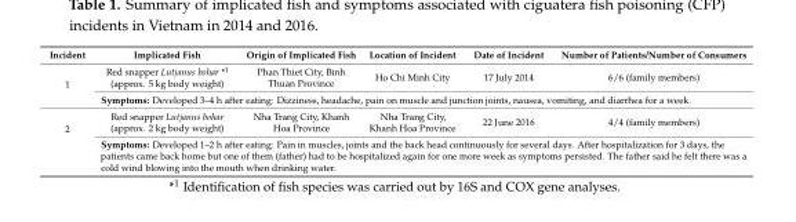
<table><thead><tr><td>Incident</td><td>Implicated Fish</td><td>Origin of Implicated Fish</td><td>Location of Incident</td><td>Date of Incident</td><td>Number of Patients/Number of Consumers</td></tr></thead><tbody><tr><td rowspan="2">1</td><td>Red snapper Lutjanus bohar *<sup>1</sup> (approx. 5 kg body weight)</td><td>Phan Thiet City, Binh Thuan Province</td><td>Ho Chi Minh City</td><td>17 July 2014</td><td>6/6 (family members)</td></tr><tr><td colspan="5">Symptoms: Developed 3–4 h after eating: Dizziness, headache, pain on muscle and junction joints, nausea, vomiting, and diarrhea for a week.</td></tr><tr><td rowspan="2">2</td><td>Red snapper Lutjanus bohar (approx. 2 kg body weight)</td><td>Nha Trang City, Khanh Hoa Province</td><td>Nha Trang City, Khanh Hoa Province</td><td>22 June 2016</td><td>4/4 (family members)</td></tr><tr><td colspan="5">Symptoms: Developed 1–2 h after eating: Pain in muscles, joints and the back head continuously for several days. After hospitalization for 3 days, the patients came back home but one of them (father) had to be hospitalized again for one more week as symptoms persisted. The father said he felt there was a cold wind blowing into the mouth when drinking water.</td></tr></tbody></table>